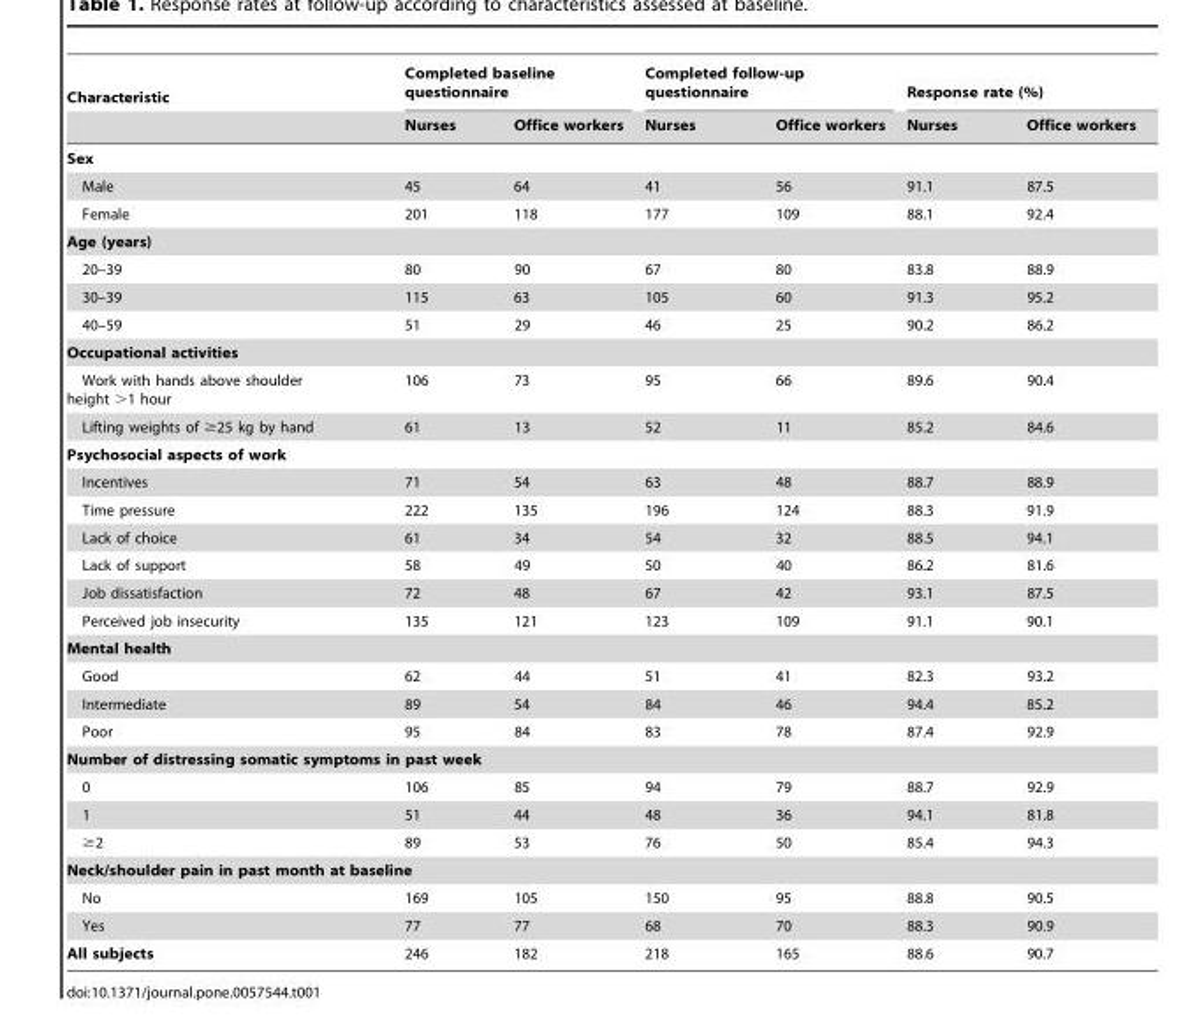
<table><thead><tr><td rowspan="2">Characteristic</td><td colspan="2">Completed baseline questionnaire</td><td colspan="2">Completed follow-up questionnaire</td><td colspan="2">Response rate (%)</td></tr><tr><td>Nurses</td><td>Office workers</td><td>Nurses</td><td>Office workers</td><td>Nurses</td><td>Office workers</td></tr></thead><tbody><tr><td colspan="7">Sex</td></tr><tr><td>Male</td><td>45</td><td>64</td><td>41</td><td>56</td><td>91.1</td><td>87.5</td></tr><tr><td>Female</td><td>201</td><td>118</td><td>177</td><td>109</td><td>88.1</td><td>92.4</td></tr><tr><td colspan="7">Age (years)</td></tr><tr><td>20–39</td><td>80</td><td>90</td><td>67</td><td>80</td><td>83.8</td><td>88.9</td></tr><tr><td>30–39</td><td>115</td><td>63</td><td>105</td><td>60</td><td>91.3</td><td>95.2</td></tr><tr><td>40–59</td><td>51</td><td>29</td><td>46</td><td>25</td><td>90.2</td><td>86.2</td></tr><tr><td colspan="7">Occupational activities</td></tr><tr><td>Work with hands above shoulder height &gt;1 hour</td><td>106</td><td>73</td><td>95</td><td>66</td><td>89.6</td><td>90.4</td></tr><tr><td>Lifting weights of ≥25 kg by hand</td><td>61</td><td>13</td><td>52</td><td>11</td><td>85.2</td><td>84.6</td></tr><tr><td colspan="7">Psychosocial aspects of work</td></tr><tr><td>Incentives</td><td>71</td><td>54</td><td>63</td><td>48</td><td>88.7</td><td>88.9</td></tr><tr><td>Time pressure</td><td>222</td><td>135</td><td>196</td><td>124</td><td>88.3</td><td>91.9</td></tr><tr><td>Lack of choice</td><td>61</td><td>34</td><td>54</td><td>32</td><td>88.5</td><td>94.1</td></tr><tr><td>Lack of support</td><td>58</td><td>49</td><td>50</td><td>40</td><td>86.2</td><td>81.6</td></tr><tr><td>Job dissatisfaction</td><td>72</td><td>48</td><td>67</td><td>42</td><td>93.1</td><td>87.5</td></tr><tr><td>Perceived job insecurity</td><td>135</td><td>121</td><td>123</td><td>109</td><td>91.1</td><td>90.1</td></tr><tr><td colspan="7">Mental health</td></tr><tr><td>Good</td><td>62</td><td>44</td><td>51</td><td>41</td><td>82.3</td><td>93.2</td></tr><tr><td>Intermediate</td><td>89</td><td>54</td><td>84</td><td>46</td><td>94.4</td><td>85.2</td></tr><tr><td>Poor</td><td>95</td><td>84</td><td>83</td><td>78</td><td>87.4</td><td>92.9</td></tr><tr><td colspan="7">Number of distressing somatic symptoms in past week</td></tr><tr><td>0</td><td>106</td><td>85</td><td>94</td><td>79</td><td>88.7</td><td>92.9</td></tr><tr><td>1</td><td>51</td><td>44</td><td>48</td><td>36</td><td>94.1</td><td>81.8</td></tr><tr><td>≥2</td><td>89</td><td>53</td><td>76</td><td>50</td><td>85.4</td><td>94.3</td></tr><tr><td colspan="7">Neck/shoulder pain in past month at baseline</td></tr><tr><td>No</td><td>169</td><td>105</td><td>150</td><td>95</td><td>88.8</td><td>90.5</td></tr><tr><td>Yes</td><td>77</td><td>77</td><td>68</td><td>70</td><td>88.3</td><td>90.9</td></tr><tr><td>All subjects</td><td>246</td><td>182</td><td>218</td><td>165</td><td>88.6</td><td>90.7</td></tr></tbody></table>